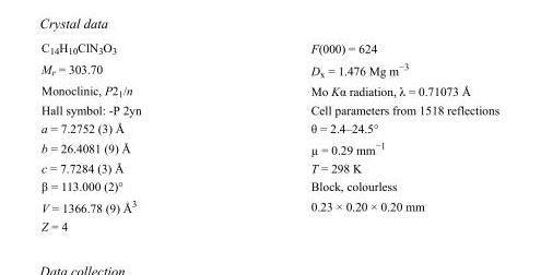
<table><tbody><tr><td>C<sub>14</sub>H<sub>10</sub>ClN<sub>3</sub>O<sub>3</sub></td><td>F(000) = 624</td></tr><tr><td>M<sub>r</sub> = 303.70</td><td>D<sub>x</sub> = 1.476 Mg m<sup>−3</sup></td></tr><tr><td>Monoclinic, P2<sub>1</sub>/n</td><td>Mo Kα radiation, λ = 0.71073 Å</td></tr><tr><td>Hall symbol: -P 2yn</td><td>Cell parameters from 1518 reflections</td></tr><tr><td>a = 7.2752 (3) Å</td><td>θ = 2.4–24.5°</td></tr><tr><td>b = 26.4081 (9) Å</td><td>µ = 0.29 mm<sup>−1</sup></td></tr><tr><td>c = 7.7284 (3) Å</td><td>T = 298 K</td></tr><tr><td>β = 113.000 (2)°</td><td>Block, colourless</td></tr><tr><td>V = 1366.78 (9) Å<sup>3</sup></td><td>0.23 × 0.20 × 0.20 mm</td></tr><tr><td>Z = 4</td><td></td></tr></tbody></table>